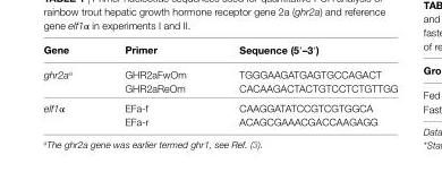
<table><thead><tr><td>gene</td><td>Primer</td><td>sequence (5′–3′)</td></tr></thead><tbody><tr><td rowspan="2">ghr2a<sup>a</sup></td><td>GHR2aFwOm</td><td>TGGGAAGATGAGTGCCAGACT</td></tr><tr><td>GHR2aReOm</td><td>CACAAGACTACTGTCCTCTGTTGG</td></tr><tr><td rowspan="2">elf1α</td><td>EFa-f</td><td>CAAGGATATCCGTCGTGGCA</td></tr><tr><td>EFa-r</td><td>ACAGCGAAACGACCAAGAGG</td></tr></tbody></table>